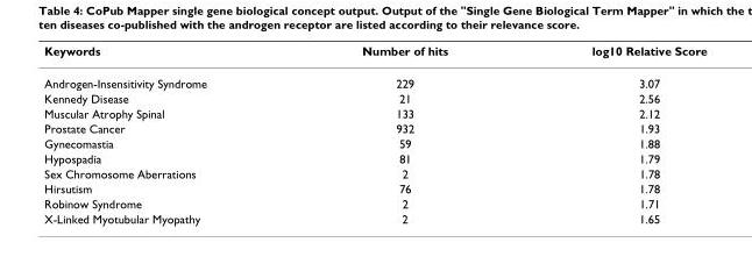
<table><thead><tr><td>Keywords</td><td>Number of hits</td><td>log10 Relative Score</td></tr></thead><tbody><tr><td>Androgen-Insensitivity Syndrome</td><td>229</td><td>3.07</td></tr><tr><td>Kennedy Disease</td><td>21</td><td>2.56</td></tr><tr><td>Muscular Atrophy Spinal</td><td>133</td><td>2.12</td></tr><tr><td>Prostate Cancer</td><td>932</td><td>1.93</td></tr><tr><td>Gynecomastia</td><td>59</td><td>1.88</td></tr><tr><td>Hypospadia</td><td>81</td><td>1.79</td></tr><tr><td>Sex Chromosome Aberrations</td><td>2</td><td>1.78</td></tr><tr><td>Hirsutism</td><td>76</td><td>1.78</td></tr><tr><td>Robinow Syndrome</td><td>2</td><td>1.71</td></tr><tr><td>X-Linked Myotubular Myopathy</td><td>2</td><td>1.65</td></tr></tbody></table>